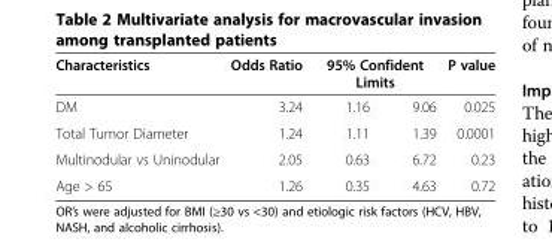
<table><thead><tr><td rowspan="2">Characteristics DM</td><td rowspan="2">Odds Ratio 3.24</td><td colspan="2">95% Confident Limits</td><td rowspan="2">P value 0.025</td></tr><tr><td>1.16</td><td>9.06</td></tr></thead><tbody><tr><td>Total Tumor Diameter</td><td>1.24</td><td>1.11</td><td>1.39</td><td>0.0001</td></tr><tr><td>Multinodular vs Uninodular</td><td>2.05</td><td>0.63</td><td>6.72</td><td>0.23</td></tr><tr><td>Age &gt; 65</td><td>1.26</td><td>0.35</td><td>4.63</td><td>0.72</td></tr></tbody></table>